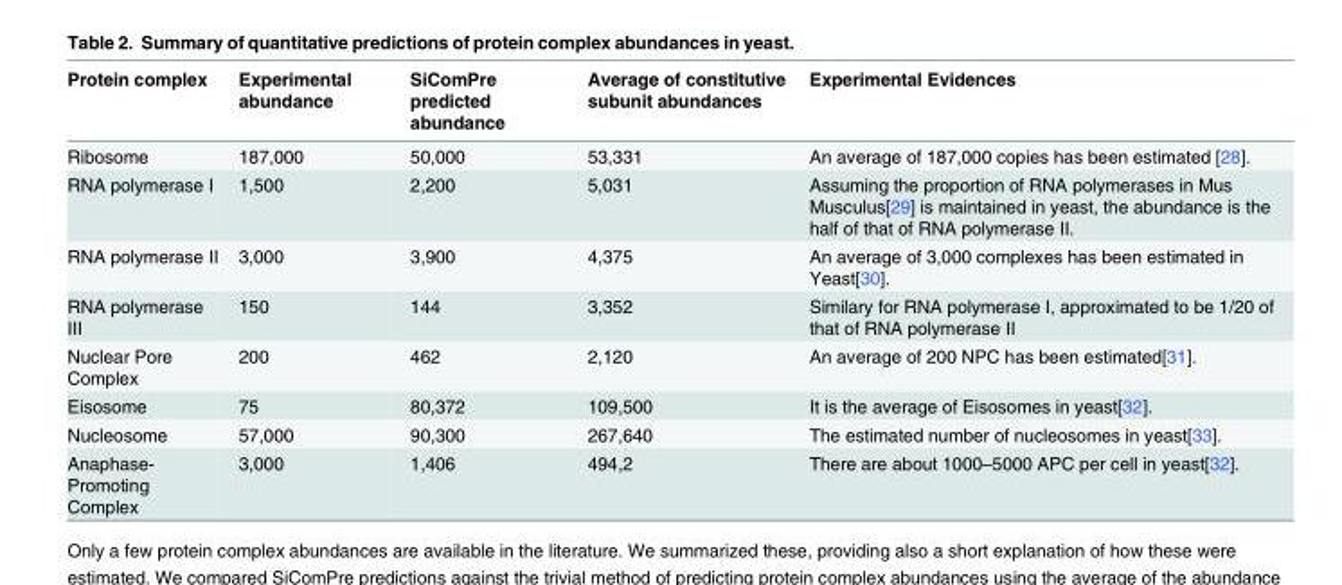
<table><thead><tr><td>Protein complex</td><td>Experimental abundance</td><td>SiComPre predicted abundance</td><td>Average of constitutive subunit abundances</td><td>Experimental Evidences</td></tr></thead><tbody><tr><td>Ribosome</td><td>187,000</td><td>50,000</td><td>53,331</td><td>An average of 187,000 copies has been estimated [28].</td></tr><tr><td>RNA polymerase I</td><td>1,500</td><td>2,200</td><td>5,031</td><td>Assuming the proportion of RNA polymerases in Mus Musculus[29] is maintained in yeast, the abundance is the half of that of RNA polymerase II.</td></tr><tr><td>RNA polymerase II</td><td>3,000</td><td>3,900</td><td>4,375</td><td>An average of 3,000 complexes has been estimated in Yeast[30].</td></tr><tr><td>RNA polymerase III</td><td>150</td><td>144</td><td>3,352</td><td>Similary for RNA polymerase I, approximated to be 1/20 of that of RNA polymerase II</td></tr><tr><td>Nuclear Pore Complex</td><td>200</td><td>462</td><td>2,120</td><td>An average of 200 NPC has been estimated[31].</td></tr><tr><td>Eisosome</td><td>75</td><td>80,372</td><td>109,500</td><td>It is the average of Eisosomes in yeast[32].</td></tr><tr><td>Nucleosome</td><td>57,000</td><td>90,300</td><td>267,640</td><td>The estimated number of nucleosomes in yeast[33].</td></tr><tr><td>Anaphase- Promoting Complex</td><td>3,000</td><td>1,406</td><td>494,2</td><td>There are about 1000–5000 APC per cell in yeast[32].</td></tr></tbody></table>